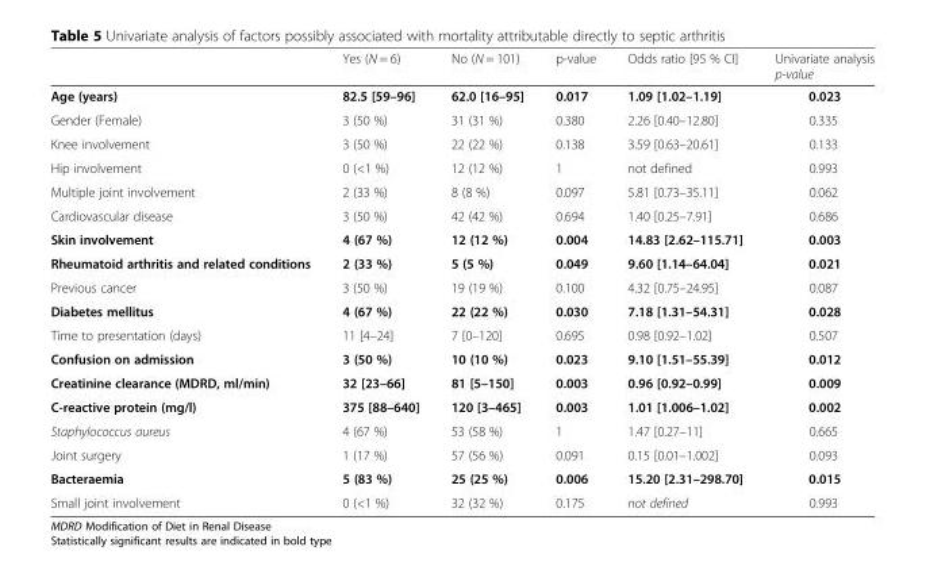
<table><thead><tr><td></td><td>Yes (N = 6)</td><td>No (N = 101)</td><td>p-value</td><td>Odds ratio [95 % CI]</td><td>Univariate analysis p-value</td></tr></thead><tbody><tr><td>Age (years)</td><td>82.5 [59–96]</td><td>62.0 [16–95]</td><td>0.017</td><td>1.09 [1.02–1.19]</td><td>0.023</td></tr><tr><td>Gender (Female)</td><td>3 (50 %)</td><td>31 (31 %)</td><td>0.380</td><td>2.26 [0.40–12.80]</td><td>0.335</td></tr><tr><td>Knee involvement</td><td>3 (50 %)</td><td>22 (22 %)</td><td>0.138</td><td>3.59 [0.63–20.61]</td><td>0.133</td></tr><tr><td>Hip involvement</td><td>0 (&lt;1 %)</td><td>12 (12 %)</td><td>1</td><td>not defined</td><td>0.993</td></tr><tr><td>Multiple joint involvement</td><td>2 (33 %)</td><td>8 (8 %)</td><td>0.097</td><td>5.81 [0.73–35.11]</td><td>0.062</td></tr><tr><td>Cardiovascular disease</td><td>3 (50 %)</td><td>42 (42 %)</td><td>0.694</td><td>1.40 [0.25–7.91]</td><td>0.686</td></tr><tr><td>Skin involvement</td><td>4 (67 %)</td><td>12 (12 %)</td><td>0.004</td><td>14.83 [2.62–115.71]</td><td>0.003</td></tr><tr><td>Rheumatoid arthritis and related conditions</td><td>2 (33 %)</td><td>5 (5 %)</td><td>0.049</td><td>9.60 [1.14–64.04]</td><td>0.021</td></tr><tr><td>Previous cancer</td><td>3 (50 %)</td><td>19 (19 %)</td><td>0.100</td><td>4.32 [0.75–24.95]</td><td>0.087</td></tr><tr><td>Diabetes mellitus</td><td>4 (67 %)</td><td>22 (22 %)</td><td>0.030</td><td>7.18 [1.31–54.31]</td><td>0.028</td></tr><tr><td>Time to presentation (days)</td><td>11 [4–24]</td><td>7 [0–120]</td><td>0.695</td><td>0.98 [0.92–1.02]</td><td>0.507</td></tr><tr><td>Confusion on admission</td><td>3 (50 %)</td><td>10 (10 %)</td><td>0.023</td><td>9.10 [1.51–55.39]</td><td>0.012</td></tr><tr><td>Creatinine clearance (MDRD, ml/min)</td><td>32 [23–66]</td><td>81 [5–150]</td><td>0.003</td><td>0.96 [0.92–0.99]</td><td>0.009</td></tr><tr><td>C-reactive protein (mg/l)</td><td>375 [88–640]</td><td>120 [3–465]</td><td>0.003</td><td>1.01 [1.006–1.02]</td><td>0.002</td></tr><tr><td>Staphylococcus aureus</td><td>4 (67 %)</td><td>53 (58 %)</td><td>1</td><td>1.47 [0.27–11]</td><td>0.665</td></tr><tr><td>Joint surgery</td><td>1 (17 %)</td><td>57 (56 %)</td><td>0.091</td><td>0.15 [0.01–1.002]</td><td>0.093</td></tr><tr><td>Bacteraemia</td><td>5 (83 %)</td><td>25 (25 %)</td><td>0.006</td><td>15.20 [2.31–298.70]</td><td>0.015</td></tr><tr><td>Small joint involvement</td><td>0 (&lt;1 %)</td><td>32 (32 %)</td><td>0.175</td><td>not defined</td><td>0.993</td></tr></tbody></table>